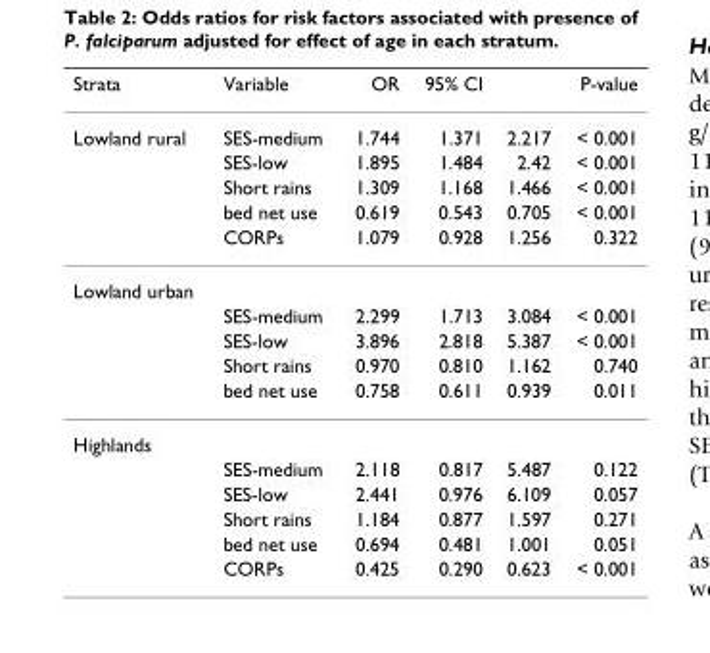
<table><thead><tr><td>Strata</td><td>Variable</td><td>OR</td><td>95% CI</td><td></td><td>P-value</td></tr></thead><tbody><tr><td rowspan="5">Lowland rural</td><td>SES-medium</td><td>1.744</td><td>1.371</td><td>2.217</td><td>&lt; 0.001</td></tr><tr><td>SES-low</td><td>1.895</td><td>1.484</td><td>2.42</td><td>&lt; 0.001</td></tr><tr><td>Short rains</td><td>1.309</td><td>1.168</td><td>1.466</td><td>&lt; 0.001</td></tr><tr><td>bed net use</td><td>0.619</td><td>0.543</td><td>0.705</td><td>&lt; 0.001</td></tr><tr><td>CORPs</td><td>1.079</td><td>0.928</td><td>1.256</td><td>0.322</td></tr><tr><td colspan="6">Lowland urban</td></tr><tr><td></td><td>SES-medium</td><td>2.299</td><td>1.713</td><td>3.084</td><td>&lt; 0.001</td></tr><tr><td></td><td>SES-low</td><td>3.896</td><td>2.818</td><td>5.387</td><td>&lt; 0.001</td></tr><tr><td></td><td>Short rains</td><td>0.970</td><td>0.810</td><td>1.162</td><td>0.740</td></tr><tr><td></td><td>bed net use</td><td>0.758</td><td>0.611</td><td>0.939</td><td>0.011</td></tr><tr><td colspan="6">Highlands</td></tr><tr><td></td><td>SES-medium</td><td>2.118</td><td>0.817</td><td>5.487</td><td>0.122</td></tr><tr><td></td><td>SES-low</td><td>2.441</td><td>0.976</td><td>6.109</td><td>0.057</td></tr><tr><td></td><td>Short rains</td><td>1.184</td><td>0.877</td><td>1.597</td><td>0.271</td></tr><tr><td></td><td>bed net use</td><td>0.694</td><td>0.481</td><td>1.001</td><td>0.051</td></tr><tr><td></td><td>CORPs</td><td>0.425</td><td>0.290</td><td>0.623</td><td>&lt; 0.001</td></tr></tbody></table>